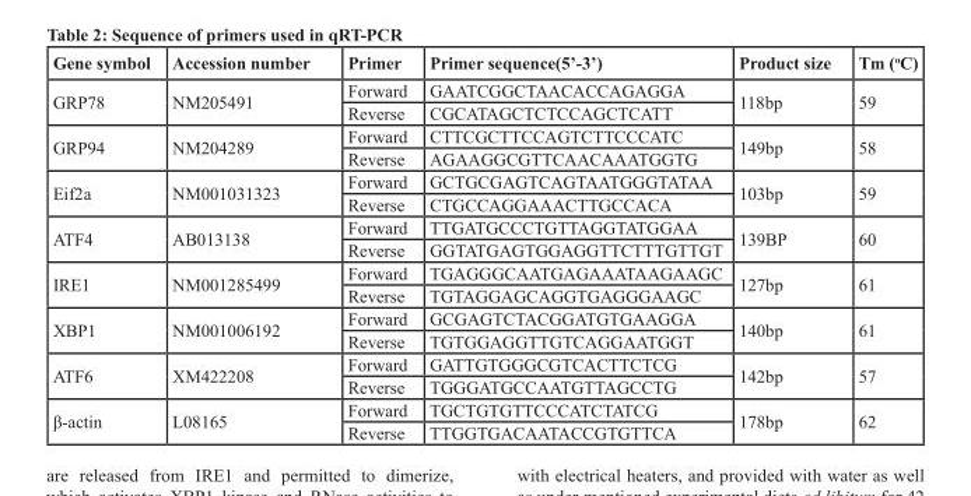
<table><thead><tr><td>Gene symbol</td><td>Accession number</td><td>Primer</td><td>Primer sequence(5’-3’)</td><td>Product size</td><td>Tm (°C)</td></tr></thead><tbody><tr><td rowspan="2">GRP78</td><td rowspan="2">NM205491</td><td>Forward</td><td>GAATCGGCTAACACCAGAGGA</td><td rowspan="2">118bp</td><td rowspan="2">59</td></tr><tr><td>Reverse</td><td>CGCATAGCTCTCCAGCTCATT</td></tr><tr><td rowspan="2">GRP94</td><td rowspan="2">NM204289</td><td>Forward</td><td>CTTCGCTTCCAGTCTTCCCATC</td><td rowspan="2">149bp</td><td rowspan="2">58</td></tr><tr><td>Reverse</td><td>AGAAGGCGTTCAACAAATGGTG</td></tr><tr><td rowspan="2">Eif2a</td><td rowspan="2">NM001031323</td><td>Forward</td><td>GCTGCGAGTCAGTAATGGGTATAA</td><td rowspan="2">103bp</td><td rowspan="2">59</td></tr><tr><td>Reverse</td><td>CTGCCAGGAAACTTGCCACA</td></tr><tr><td rowspan="2">ATF4</td><td rowspan="2">AB013138</td><td>Forward</td><td>TTGATGCCCTGTTAGGTATGGAA</td><td rowspan="2">139BP</td><td rowspan="2">60</td></tr><tr><td>Reverse</td><td>GGTATGAGTGGAGGTTCTTTGTTGT</td></tr><tr><td rowspan="2">IRE1</td><td rowspan="2">NM001285499</td><td>Forward</td><td>TGAGGGCAATGAGAAATAAGAAGC</td><td rowspan="2">127bp</td><td rowspan="2">61</td></tr><tr><td>Reverse</td><td>TGTAGGAGCAGGTGAGGGAAGC</td></tr><tr><td rowspan="2">XBP1</td><td rowspan="2">NM001006192</td><td>Forward</td><td>GCGAGTCTACGGATGTGAAGGA</td><td rowspan="2">140bp</td><td rowspan="2">61</td></tr><tr><td>Reverse</td><td>TGTGGAGGTTGTCAGGAATGGT</td></tr><tr><td rowspan="2">ATF6</td><td rowspan="2">XM422208</td><td>Forward</td><td>GATTGTGGGCGTCACTTCTCG</td><td rowspan="2">142bp</td><td rowspan="2">57</td></tr><tr><td>Reverse</td><td>TGGGATGCCAATGTTAGCCTG</td></tr><tr><td rowspan="2">β-actin</td><td rowspan="2">L08165</td><td>Forward</td><td>TGCTGTGTTCCCATCTATCG</td><td rowspan="2">178bp</td><td rowspan="2">62</td></tr><tr><td>Reverse</td><td>TTGGTGACAATACCGTGTTCA</td></tr></tbody></table>